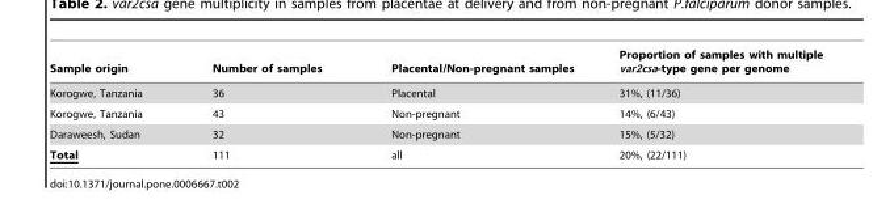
<table><thead><tr><td>Sample origin</td><td>Number of samples</td><td>Placental/Non-pregnant samples</td><td>Proportion of samples with multiple var2csa-type gene per genome</td></tr></thead><tbody><tr><td>Korogwe, Tanzania</td><td>36</td><td>Placental</td><td>31%, (11/36)</td></tr><tr><td>Korogwe, Tanzania</td><td>43</td><td>Non-pregnant</td><td>14%, (6/43)</td></tr><tr><td>Daraweesh, Sudan</td><td>32</td><td>Non-pregnant</td><td>15%, (5/32)</td></tr><tr><td>Total</td><td>111</td><td>all</td><td>20%, (22/111)</td></tr></tbody></table>